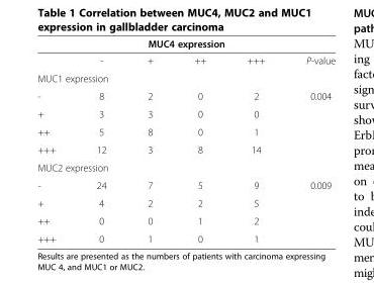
<table><thead><tr><td colspan="6">MUC4 expression</td></tr><tr><td></td><td>-</td><td>+</td><td>++</td><td>+++</td><td>P-value</td></tr></thead><tbody><tr><td colspan="6">MUC1 expression</td></tr><tr><td>-</td><td>8</td><td>2</td><td>0</td><td>2</td><td>0.004</td></tr><tr><td>+</td><td>3</td><td>3</td><td>0</td><td>0</td><td></td></tr><tr><td>++</td><td>5</td><td>8</td><td>0</td><td>1</td><td></td></tr><tr><td>+++</td><td>12</td><td>3</td><td>8</td><td>14</td><td></td></tr><tr><td colspan="6">MUC2 expression</td></tr><tr><td>-</td><td>24</td><td>7</td><td>5</td><td>9</td><td>0.009</td></tr><tr><td>+</td><td>4</td><td>2</td><td>2</td><td>5</td><td></td></tr><tr><td>++</td><td>0</td><td>0</td><td>1</td><td>2</td><td></td></tr><tr><td>+++</td><td>0</td><td>1</td><td>0</td><td>1</td><td></td></tr></tbody></table>